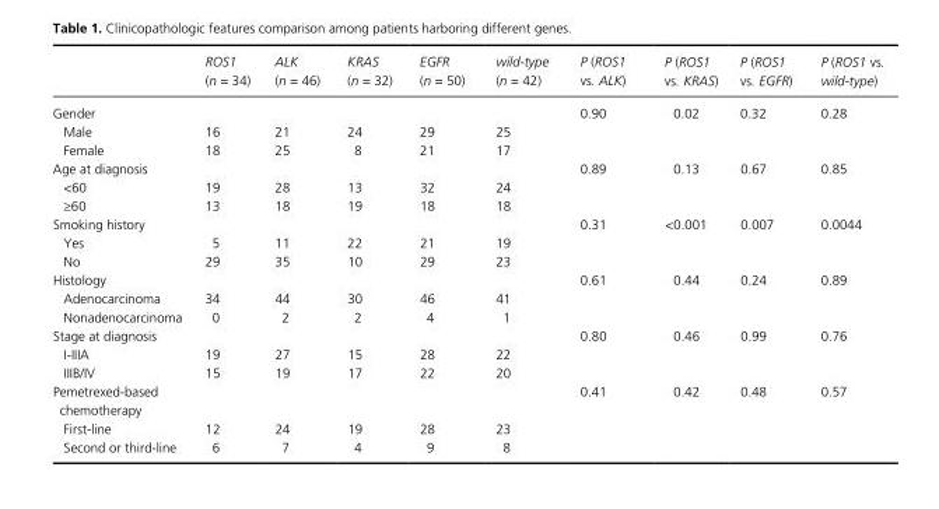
<table><thead><tr><td></td><td>ROS1 (n = 34)</td><td>ALK (n = 46)</td><td>KRAS (n = 32)</td><td>EGFR (n = 50)</td><td>wild-type (n = 42)</td><td>P (ROS1 vs. ALK)</td><td>P (ROS1 vs. KRAS)</td><td>P (ROS1 vs. EGFR)</td><td>P (ROS1 vs. wild-type)</td></tr></thead><tbody><tr><td>Gender</td><td></td><td></td><td></td><td></td><td></td><td>0.90</td><td>0.02</td><td>0.32</td><td>0.28</td></tr><tr><td>Male</td><td>16</td><td>21</td><td>24</td><td>29</td><td>25</td><td></td><td></td><td></td><td></td></tr><tr><td>Female</td><td>18</td><td>25</td><td>8</td><td>21</td><td>17</td><td></td><td></td><td></td><td></td></tr><tr><td>Age at diagnosis</td><td></td><td></td><td></td><td></td><td></td><td>0.89</td><td>0.13</td><td>0.67</td><td>0.85</td></tr><tr><td>&lt;60</td><td>19</td><td>28</td><td>13</td><td>32</td><td>24</td><td></td><td></td><td></td><td></td></tr><tr><td>≥60</td><td>13</td><td>18</td><td>19</td><td>18</td><td>18</td><td></td><td></td><td></td><td></td></tr><tr><td>Smoking history</td><td></td><td></td><td></td><td></td><td></td><td>0.31</td><td>&lt;0.001</td><td>0.007</td><td>0.0044</td></tr><tr><td>Yes</td><td>5</td><td>11</td><td>22</td><td>21</td><td>19</td><td></td><td></td><td></td><td></td></tr><tr><td>No</td><td>29</td><td>35</td><td>10</td><td>29</td><td>23</td><td></td><td></td><td></td><td></td></tr><tr><td>Histology</td><td></td><td></td><td></td><td></td><td></td><td>0.61</td><td>0.44</td><td>0.24</td><td>0.89</td></tr><tr><td>Adenocarcinoma</td><td>34</td><td>44</td><td>30</td><td>46</td><td>41</td><td></td><td></td><td></td><td></td></tr><tr><td>Nonadenocarcinoma</td><td>0</td><td>2</td><td>2</td><td>4</td><td>1</td><td></td><td></td><td></td><td></td></tr><tr><td>Stage at diagnosis</td><td></td><td></td><td></td><td></td><td></td><td>0.80</td><td>0.46</td><td>0.99</td><td>0.76</td></tr><tr><td>I- IIIA</td><td>19</td><td>27</td><td>15</td><td>28</td><td>22</td><td></td><td></td><td></td><td></td></tr><tr><td>IIIB/IV</td><td>15</td><td>19</td><td>17</td><td>22</td><td>20</td><td></td><td></td><td></td><td></td></tr><tr><td>Pemetrexed- based chemotherapy</td><td></td><td></td><td></td><td></td><td></td><td>0.41</td><td>0.42</td><td>0.48</td><td>0.57</td></tr><tr><td>First- line</td><td>12</td><td>24</td><td>19</td><td>28</td><td>23</td><td></td><td></td><td></td><td></td></tr><tr><td>Second or third- line</td><td>6</td><td>7</td><td>4</td><td>9</td><td>8</td><td></td><td></td><td></td><td></td></tr></tbody></table>